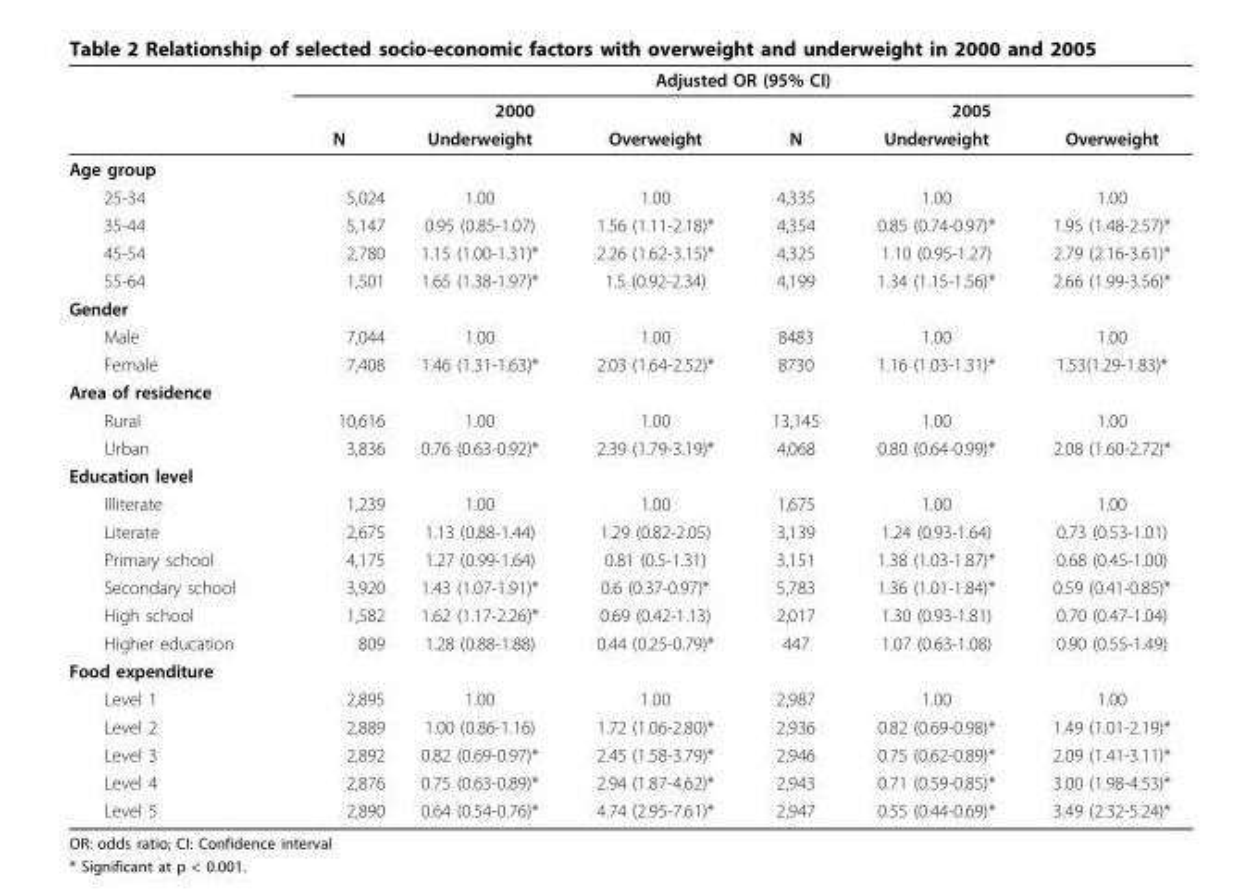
<table><thead><tr><td rowspan="3"></td><td colspan="6">Adjusted OR (95% CI)</td></tr><tr><td colspan="3">2000</td><td colspan="3">2005</td></tr><tr><td>N</td><td>Underweight</td><td>Overweight</td><td>N</td><td>Underweight</td><td>Overweight</td></tr></thead><tbody><tr><td colspan="7">Age group</td></tr><tr><td>25-34</td><td>5,024</td><td>1.00</td><td>1.00</td><td>4,335</td><td>1.00</td><td>1.00</td></tr><tr><td>35-44</td><td>5,147</td><td>0.95 (0.85-1.07)</td><td>1.56 (1.11-2.18)*</td><td>4,354</td><td>0.85 (0.74-0.97)*</td><td>1.95 (1.48-2.57)*</td></tr><tr><td>45-54</td><td>2,780</td><td>1.15 (1.00-1.31)*</td><td>2.26 (1.62-3.15)*</td><td>4,325</td><td>1.10 (0.95-1.27)</td><td>2.79 (2.16-3.61)*</td></tr><tr><td>55-64</td><td>1,501</td><td>1.65 (1.38-1.97)*</td><td>1.5 (0.92-2.34)</td><td>4,199</td><td>1.34 (1.15-1.56)*</td><td>2.66 (1.99-3.56)*</td></tr><tr><td colspan="7">Gender</td></tr><tr><td>Male</td><td>7,044</td><td>1.00</td><td>1.00</td><td>8483</td><td>1.00</td><td>1.00</td></tr><tr><td>Female</td><td>7,408</td><td>1.46 (1.31-1.63)*</td><td>2.03 (1.64-2.52)*</td><td>8730</td><td>1.16 (1.03-1.31)*</td><td>1.53(1.29-1.83)*</td></tr><tr><td colspan="7">Area of residence</td></tr><tr><td>Rural</td><td>10,616</td><td>1.00</td><td>1.00</td><td>13,145</td><td>1.00</td><td>1.00</td></tr><tr><td>Urban</td><td>3,836</td><td>0.76 (0.63-0.92)*</td><td>2.39 (1.79-3.19)*</td><td>4,068</td><td>0.80 (0.64-0.99)*</td><td>2.08 (1.60-2.72)*</td></tr><tr><td colspan="7">Education level</td></tr><tr><td>Illiterate</td><td>1,239</td><td>1.00</td><td>1.00</td><td>1,675</td><td>1.00</td><td>1.00</td></tr><tr><td>Literate</td><td>2,675</td><td>1.13 (0.88-1.44)</td><td>1.29 (0.82-2.05)</td><td>3,139</td><td>1.24 (0.93-1.64)</td><td>0.73 (0.53-1.01)</td></tr><tr><td>Primary school</td><td>4,175</td><td>1.27 (0.99-1.64)</td><td>0.81 (0.5-1.31)</td><td>3,151</td><td>1.38 (1.03-1.87)*</td><td>0.68 (0.45-1.00)</td></tr><tr><td>Secondary school</td><td>3,920</td><td>1.43 (1.07-1.91)*</td><td>0.6 (0.37-0.97)*</td><td>5,783</td><td>1.36 (1.01-1.84)*</td><td>0.59 (0.41-0.85)*</td></tr><tr><td>High school</td><td>1,582</td><td>1.62 (1.17-2.26)*</td><td>0.69 (0.42-1.13)</td><td>2,017</td><td>1.30 (0.93-1.81)</td><td>0.70 (0.47-1.04)</td></tr><tr><td>Higher education</td><td>809</td><td>1.28 (0.88-1.88)</td><td>0.44 (0.25-0.79)*</td><td>447</td><td>1.07 (0.63-1.08)</td><td>0.90 (0.55-1.49)</td></tr><tr><td colspan="7">Food expenditure</td></tr><tr><td>Level 1</td><td>2,895</td><td>1.00</td><td>1.00</td><td>2,987</td><td>1.00</td><td>1.00</td></tr><tr><td>Level 2</td><td>2,889</td><td>1.00 (0.86-1.16)</td><td>1.72 (1.06-2.80)*</td><td>2,936</td><td>0.82 (0.69-0.98)*</td><td>1.49 (1.01-2.19)*</td></tr><tr><td>Level 3</td><td>2,892</td><td>0.82 (0.69-0.97)*</td><td>2.45 (1.58-3.79)*</td><td>2,946</td><td>0.75 (0.62-0.89)*</td><td>2.09 (1.41-3.11)*</td></tr><tr><td>Level 4</td><td>2,876</td><td>0.75 (0.63-0.89)*</td><td>2.94 (1.87-4.62)*</td><td>2,943</td><td>0.71 (0.59-0.85)*</td><td>3.00 (1.98-4.53)*</td></tr><tr><td>Level 5</td><td>2,890</td><td>0.64 (0.54-0.76)*</td><td>4.74 (2.95-7.61)*</td><td>2,947</td><td>0.55 (0.44-0.69)*</td><td>3.49 (2.32-5.24)*</td></tr></tbody></table>